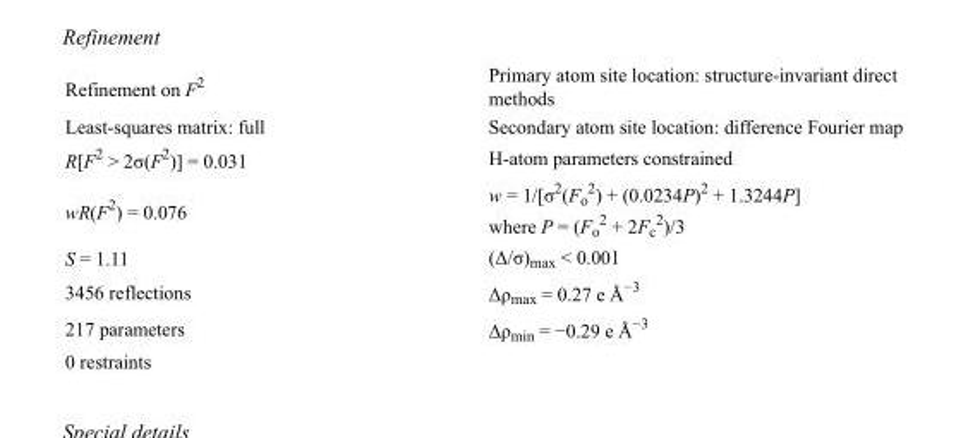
<table><tbody><tr><td>Refinement on F<sup>2</sup></td><td>Primary atom site location: structure-invariant direct methods</td></tr><tr><td>Least-squares matrix: full</td><td>Secondary atom site location: difference Fourier map</td></tr><tr><td>R[F<sup>2</sup> &gt; 2σ(F<sup>2</sup>)] = 0.031</td><td>H-atom parameters constrained</td></tr><tr><td>wR(F<sup>2</sup>) = 0.076</td><td>w = 1/[σ<sup>2</sup>(F<sub>o</sub> <sup>2</sup>) + (0.0234P)<sup>2</sup> + 1.3244P] where P = (F<sub>o</sub> <sup>2</sup> + 2F<sub>c</sub> <sup>2</sup>)/3</td></tr><tr><td>S = 1.11</td><td>(Δ/σ)<sub>max</sub> &lt; 0.001</td></tr><tr><td>3456 reflections</td><td>Δρ<sub>max</sub> = 0.27 e Å<sup>−3</sup></td></tr><tr><td>217 parameters</td><td>Δρ<sub>min</sub> = −0.29 e Å<sup>−3</sup></td></tr><tr><td>0 restraints</td><td></td></tr></tbody></table>